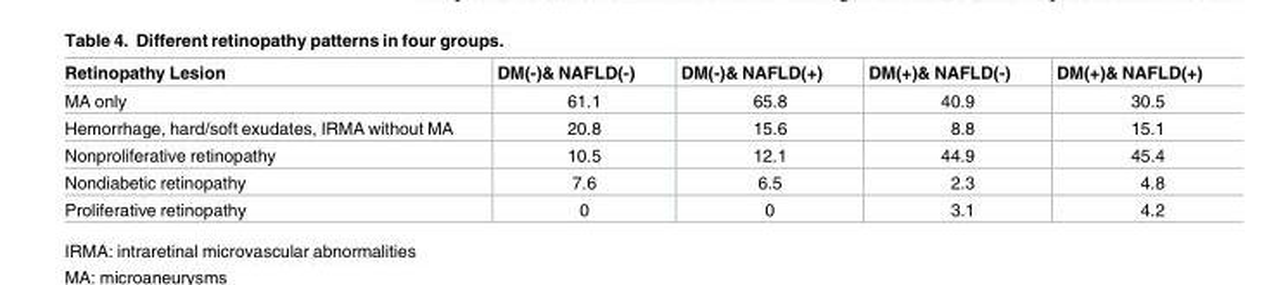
<table><thead><tr><td>Retinopathy Lesion</td><td>DM(-)&amp; NAFLD(-)</td><td>DM(-)&amp; NAFLD(+)</td><td>DM(+)&amp; NAFLD(-)</td><td>DM(+)&amp; NAFLD(+)</td></tr></thead><tbody><tr><td>MA only</td><td>61.1</td><td>65.8</td><td>40.9</td><td>30.5</td></tr><tr><td>Hemorrhage, hard/soft exudates, IRMA without MA</td><td>20.8</td><td>15.6</td><td>8.8</td><td>15.1</td></tr><tr><td>Nonproliferative retinopathy</td><td>10.5</td><td>12.1</td><td>44.9</td><td>45.4</td></tr><tr><td>Nondiabetic retinopathy</td><td>7.6</td><td>6.5</td><td>2.3</td><td>4.8</td></tr><tr><td>Proliferative retinopathy</td><td>0</td><td>0</td><td>3.1</td><td>4.2</td></tr></tbody></table>